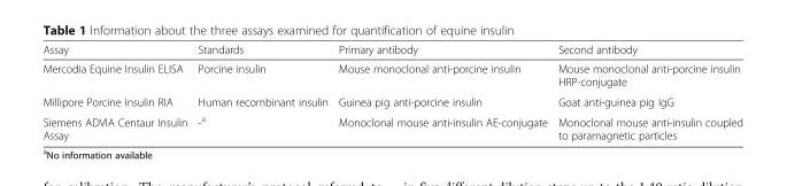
<table><thead><tr><td>Assay</td><td>Standards</td><td>Primary antibody</td><td>Second antibody</td></tr></thead><tbody><tr><td>Mercodia Equine Insulin ELISA</td><td>Porcine insulin</td><td>Mouse monoclonal anti-porcine insulin</td><td>Mouse monoclonal anti-porcine insulin HRP-conjugate</td></tr><tr><td>Millipore Porcine Insulin RIA</td><td>Human recombinant insulin</td><td>Guinea pig anti-porcine insulin</td><td>Goat anti-guinea pig IgG</td></tr><tr><td>Siemens ADVIA Centaur Insulin Assay</td><td>-<sup>a</sup></td><td>Monoclonal mouse anti-insulin AE-conjugate</td><td>Monoclonal mouse anti-insulin coupled to paramagnetic particles</td></tr></tbody></table>